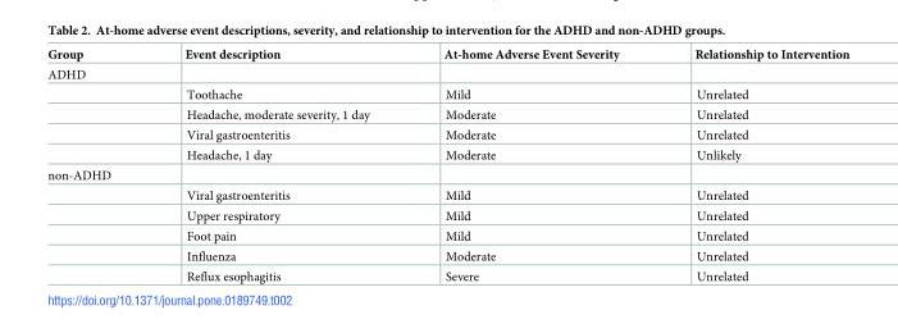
<table><thead><tr><td>Group</td><td>Event description</td><td>At-home Adverse Event Severity</td><td>Relationship to Intervention</td></tr></thead><tbody><tr><td colspan="4">ADHD</td></tr><tr><td></td><td>Toothache</td><td>Mild</td><td>Unrelated</td></tr><tr><td></td><td>Headache, moderate severity, 1 day</td><td>Moderate</td><td>Unrelated</td></tr><tr><td></td><td>Viral gastroenteritis</td><td>Moderate</td><td>Unrelated</td></tr><tr><td></td><td>Headache, 1 day</td><td>Moderate</td><td>Unlikely</td></tr><tr><td colspan="4">non-ADHD</td></tr><tr><td></td><td>Viral gastroenteritis</td><td>Mild</td><td>Unrelated</td></tr><tr><td></td><td>Upper respiratory</td><td>Mild</td><td>Unrelated</td></tr><tr><td></td><td>Foot pain</td><td>Mild</td><td>Unrelated</td></tr><tr><td></td><td>Influenza</td><td>Moderate</td><td>Unrelated</td></tr><tr><td></td><td>Reflux esophagitis</td><td>Severe</td><td>Unrelated</td></tr></tbody></table>